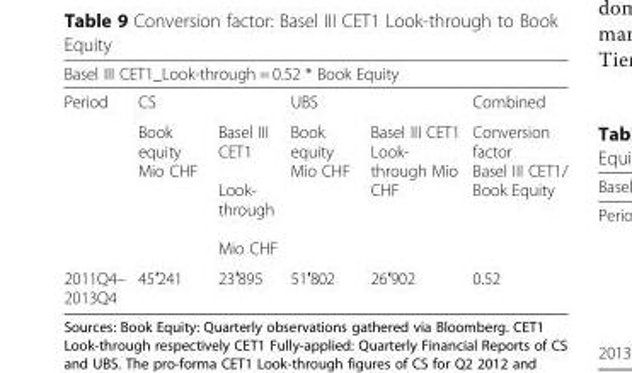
<table><thead><tr><td colspan="6">Basel III CET1_Look-through = 0.52 * Book Equity</td></tr><tr><td rowspan="2">Period</td><td colspan="2">CS</td><td colspan="2">UBS</td><td rowspan="2">Combined Conversion factor Basel III CET1/ Book Equity</td></tr><tr><td>Book equity Mio CHF</td><td>Basel III CET1 Look- through Mio CHF</td><td>Book equity Mio CHF</td><td>Basel III CET1 Look- through Mio CHF</td></tr></thead><tbody><tr><td>2011Q4– 2013Q4</td><td>45′241</td><td>23′895</td><td>51′802</td><td>26′902</td><td>0.52</td></tr></tbody></table>